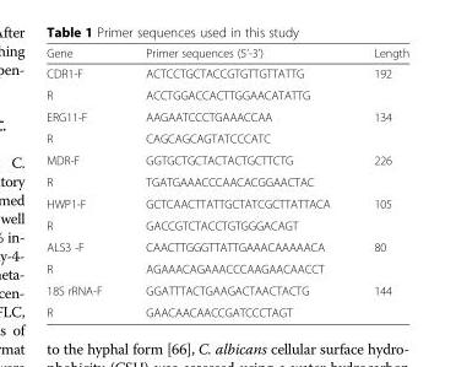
<table><thead><tr><td>Gene</td><td>Primer sequences (5’-3’)</td><td>Length</td></tr></thead><tbody><tr><td>CDR1-F</td><td>ACTCCTGCTACCGTGTTGTTATTG</td><td rowspan="2">192</td></tr><tr><td>R</td><td>ACCTGGACCACTTGGAACATATTG</td></tr><tr><td>ERG11-F</td><td>AAGAATCCCTGAAACCAA</td><td rowspan="2">134</td></tr><tr><td>R</td><td>CAGCAGCAGTATCCCATC</td></tr><tr><td>MDR-F</td><td>GGTGCTGCTACTACTGCTTCTG</td><td rowspan="2">226</td></tr><tr><td>R</td><td>TGATGAAACCCAACACGGAACTAC</td></tr><tr><td>HWP1-F</td><td>GCTCAACTTATTGCTATCGCTTATTACA</td><td rowspan="2">105</td></tr><tr><td>R</td><td>GACCGTCTACCTGTGGGACAGT</td></tr><tr><td>ALS3 -F</td><td>CAACTTGGGTTATTGAAACAAAAACA</td><td rowspan="2">80</td></tr><tr><td>R</td><td>AGAAACAGAAACCCAAGAACAACCT</td></tr><tr><td>18S rRNA-F</td><td>GGATTTACTGAAGACTAACTACTG</td><td rowspan="2">144</td></tr><tr><td>R</td><td>GAACAACAACCGATCCCTAGT</td></tr></tbody></table>